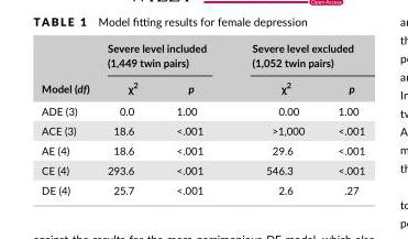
<table><thead><tr><td rowspan="2">Model (df)</td><td colspan="2">Severe level included (1,449 twin pairs)</td><td colspan="2">Severe level excluded (1,052 twin pairs)</td></tr><tr><td>χ<sup>2</sup></td><td>p</td><td>χ<sup>2</sup></td><td>p</td></tr></thead><tbody><tr><td>ADE (3)</td><td>0.0</td><td>1.00</td><td>0.00</td><td>1.00</td></tr><tr><td>ACE (3)</td><td>18.6</td><td>&lt;.001</td><td>&gt;1,000</td><td>&lt;.001</td></tr><tr><td>AE (4)</td><td>18.6</td><td>&lt;.001</td><td>29.6</td><td>&lt;.001</td></tr><tr><td>CE (4)</td><td>293.6</td><td>&lt;.001</td><td>546.3</td><td>&lt;.001</td></tr><tr><td>DE (4)</td><td>25.7</td><td>&lt;.001</td><td>2.6</td><td>.27</td></tr></tbody></table>